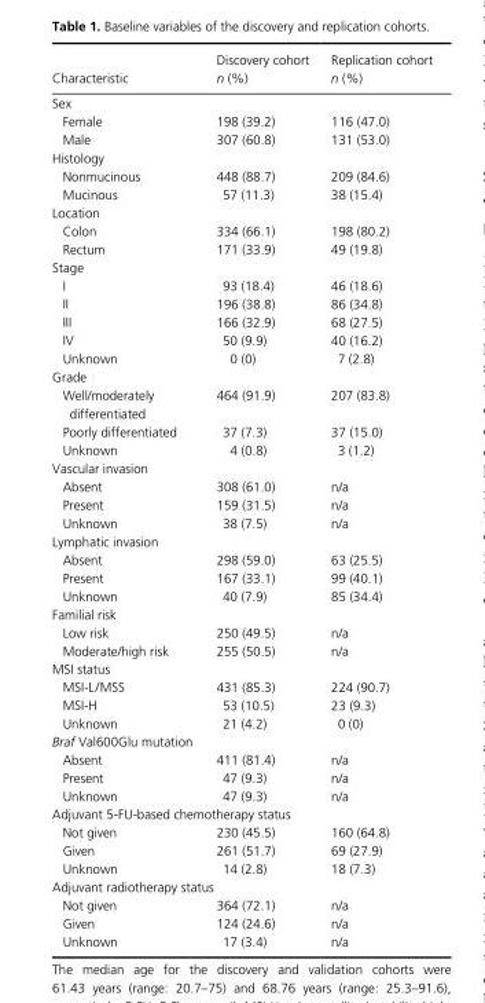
<table><thead><tr><td>Characteristic</td><td>Discovery cohort n (%)</td><td>Replication cohort n (%)</td></tr></thead><tbody><tr><td colspan="3">Sex</td></tr><tr><td>Female</td><td>198 (39.2)</td><td>116 (47.0)</td></tr><tr><td>Male</td><td>307 (60.8)</td><td>131 (53.0)</td></tr><tr><td colspan="3">Histology</td></tr><tr><td>Nonmucinous</td><td>448 (88.7)</td><td>209 (84.6)</td></tr><tr><td>Mucinous</td><td>57 (11.3)</td><td>38 (15.4)</td></tr><tr><td colspan="3">Location</td></tr><tr><td>Colon</td><td>334 (66.1)</td><td>198 (80.2)</td></tr><tr><td>Rectum</td><td>171 (33.9)</td><td>49 (19.8)</td></tr><tr><td colspan="3">Stage</td></tr><tr><td>I</td><td>93 (18.4)</td><td>46 (18.6)</td></tr><tr><td>II</td><td>196 (38.8)</td><td>86 (34.8)</td></tr><tr><td>III</td><td>166 (32.9)</td><td>68 (27.5)</td></tr><tr><td>IV</td><td>50 (9.9)</td><td>40 (16.2)</td></tr><tr><td>Unknown</td><td>0 (0)</td><td>7 (2.8)</td></tr><tr><td colspan="3">Grade</td></tr><tr><td>Well/moderately differentiated</td><td>464 (91.9)</td><td>207 (83.8)</td></tr><tr><td>Poorly differentiated</td><td>37 (7.3)</td><td>37 (15.0)</td></tr><tr><td>Unknown</td><td>4 (0.8)</td><td>3 (1.2)</td></tr><tr><td colspan="3">Vascular invasion</td></tr><tr><td>Absent</td><td>308 (61.0)</td><td>n/a</td></tr><tr><td>Present</td><td>159 (31.5)</td><td>n/a</td></tr><tr><td>Unknown</td><td>38 (7.5)</td><td>n/a</td></tr><tr><td colspan="3">Lymphatic invasion</td></tr><tr><td>Absent</td><td>298 (59.0)</td><td>63 (25.5)</td></tr><tr><td>Present</td><td>167 (33.1)</td><td>99 (40.1)</td></tr><tr><td>Unknown</td><td>40 (7.9)</td><td>85 (34.4)</td></tr><tr><td colspan="3">Familial risk</td></tr><tr><td>Low risk</td><td>250 (49.5)</td><td>n/a</td></tr><tr><td>Moderate/high risk</td><td>255 (50.5)</td><td>n/a</td></tr><tr><td colspan="3">MSI status</td></tr><tr><td>MSI-L/MSS</td><td>431 (85.3)</td><td>224 (90.7)</td></tr><tr><td>MSI-H</td><td>53 (10.5)</td><td>23 (9.3)</td></tr><tr><td>Unknown</td><td>21 (4.2)</td><td>0 (0)</td></tr><tr><td colspan="3">Braf Val600Glu mutation</td></tr><tr><td>Absent</td><td>411 (81.4)</td><td>n/a</td></tr><tr><td>Present</td><td>47 (9.3)</td><td>n/a</td></tr><tr><td>Unknown</td><td>47 (9.3)</td><td>n/a</td></tr><tr><td colspan="3">Adjuvant 5- FU- based chemotherapy status</td></tr><tr><td>Not given</td><td>230 (45.5)</td><td>160 (64.8)</td></tr><tr><td>Given</td><td>261 (51.7)</td><td>69 (27.9)</td></tr><tr><td>Unknown</td><td>14 (2.8)</td><td>18 (7.3)</td></tr><tr><td colspan="3">Adjuvant radiotherapy status</td></tr><tr><td>Not given</td><td>364 (72.1)</td><td>n/a</td></tr><tr><td>Given</td><td>124 (24.6)</td><td>n/a</td></tr><tr><td>Unknown</td><td>17 (3.4)</td><td>n/a</td></tr></tbody></table>